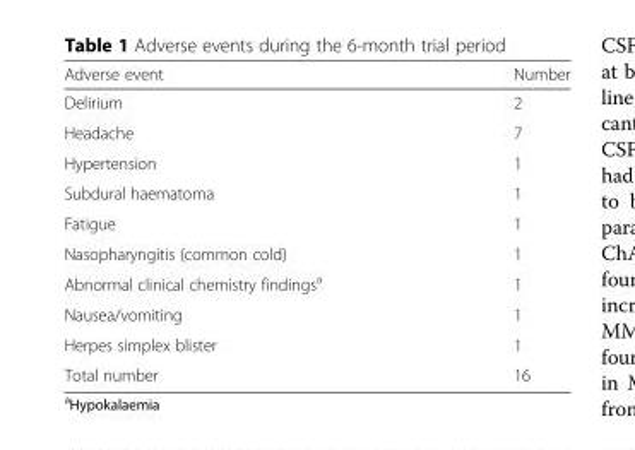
<table><thead><tr><td>Adverse event</td><td>Number</td></tr></thead><tbody><tr><td>Delirium</td><td>2</td></tr><tr><td>Headache</td><td>7</td></tr><tr><td>Hypertension</td><td>1</td></tr><tr><td>Subdural haematoma</td><td>1</td></tr><tr><td>Fatigue</td><td>1</td></tr><tr><td>Nasopharyngitis (common cold)</td><td>1</td></tr><tr><td>Abnormal clinical chemistry findings<sup>a</sup></td><td>1</td></tr><tr><td>Nausea/vomiting</td><td>1</td></tr><tr><td>Herpes simplex blister</td><td>1</td></tr><tr><td>Total number</td><td>16</td></tr></tbody></table>